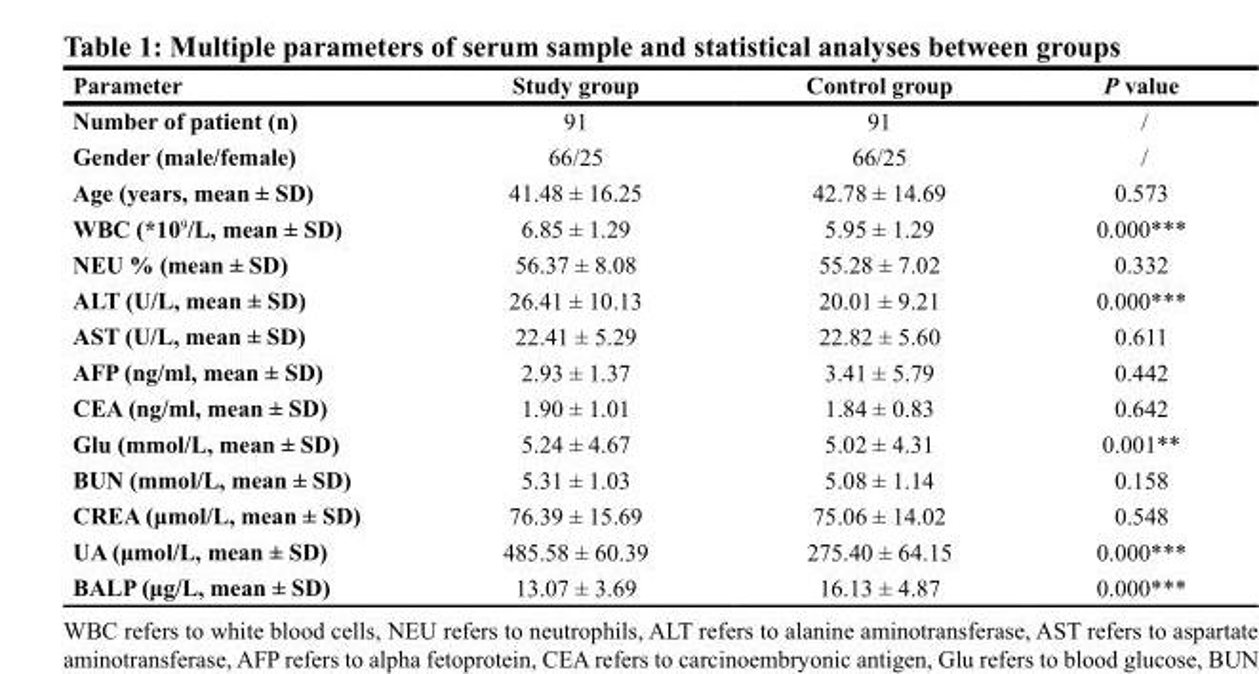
<table><thead><tr><td>Parameter</td><td>Study group</td><td>Control group</td><td>P value</td></tr></thead><tbody><tr><td>Number of patient (n)</td><td>91</td><td>91</td><td>/</td></tr><tr><td>Gender (male/female)</td><td>66/25</td><td>66/25</td><td>/</td></tr><tr><td>Age (years, mean ± SD)</td><td>41.48 ± 16.25</td><td>42.78 ± 14.69</td><td>0.573</td></tr><tr><td>WBC (*10<sup>9</sup>/L, mean ± SD)</td><td>6.85 ± 1.29</td><td>5.95 ± 1.29</td><td>0.000***</td></tr><tr><td>NEU % (mean ± SD)</td><td>56.37 ± 8.08</td><td>55.28 ± 7.02</td><td>0.332</td></tr><tr><td>ALT (U/L, mean ± SD)</td><td>26.41 ± 10.13</td><td>20.01 ± 9.21</td><td>0.000***</td></tr><tr><td>AST (U/L, mean ± SD)</td><td>22.41 ± 5.29</td><td>22.82 ± 5.60</td><td>0.611</td></tr><tr><td>AFP (ng/ml, mean ± SD)</td><td>2.93 ± 1.37</td><td>3.41 ± 5.79</td><td>0.442</td></tr><tr><td>CEA (ng/ml, mean ± SD)</td><td>1.90 ± 1.01</td><td>1.84 ± 0.83</td><td>0.642</td></tr><tr><td>Glu (mmol/L, mean ± SD)</td><td>5.24 ± 4.67</td><td>5.02 ± 4.31</td><td>0.001**</td></tr><tr><td>BUN (mmol/L, mean ± SD)</td><td>5.31 ± 1.03</td><td>5.08 ± 1.14</td><td>0.158</td></tr><tr><td>CREA (μmol/L, mean ± SD)</td><td>76.39 ± 15.69</td><td>75.06 ± 14.02</td><td>0.548</td></tr><tr><td>UA (μmol/L, mean ± SD)</td><td>485.58 ± 60.39</td><td>275.40 ± 64.15</td><td>0.000***</td></tr><tr><td>BALP (μg/L, mean ± SD)</td><td>13.07 ± 3.69</td><td>16.13 ± 4.87</td><td>0.000***</td></tr></tbody></table>